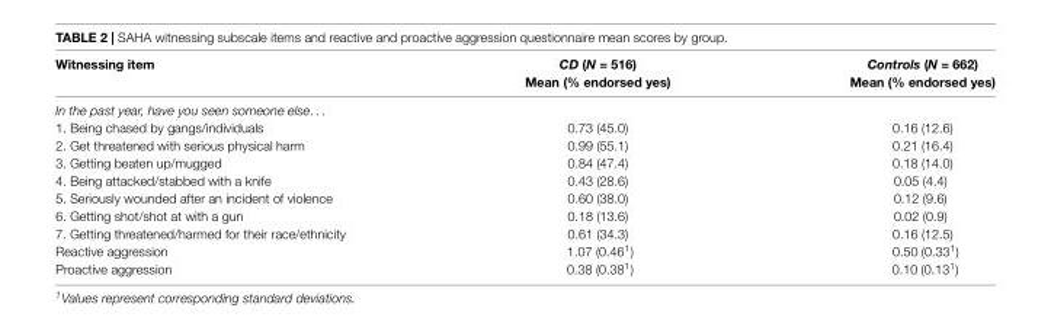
<table><thead><tr><td>Witnessing item</td><td>CD (N = 516) Mean (% endorsed yes)</td><td>Controls (N = 662) Mean (% endorsed yes)</td></tr></thead><tbody><tr><td colspan="3">In the past year, have you seen someone else. . .</td></tr><tr><td>1. Being chased by gangs/individuals</td><td>0.73 (45.0)</td><td>0.16 (12.6)</td></tr><tr><td>2. Get threatened with serious physical harm</td><td>0.99 (55.1)</td><td>0.21 (16.4)</td></tr><tr><td>3. Getting beaten up/mugged</td><td>0.84 (47.4)</td><td>0.18 (14.0)</td></tr><tr><td>4. Being attacked/stabbed with a knife</td><td>0.43 (28.6)</td><td>0.05 (4.4)</td></tr><tr><td>5. Seriously wounded after an incident of violence</td><td>0.60 (38.0)</td><td>0.12 (9.6)</td></tr><tr><td>6. Getting shot/shot at with a gun</td><td>0.18 (13.6)</td><td>0.02 (0.9)</td></tr><tr><td>7. Getting threatened/harmed for their race/ethnicity</td><td>0.61 (34.3)</td><td>0.16 (12.5)</td></tr><tr><td>Reactive aggression</td><td>1.07 (0.46<sup>1</sup>)</td><td>0.50 (0.33<sup>1</sup>)</td></tr><tr><td>Proactive aggression</td><td>0.38 (0.38<sup>1</sup>)</td><td>0.10 (0.13<sup>1</sup>)</td></tr></tbody></table>